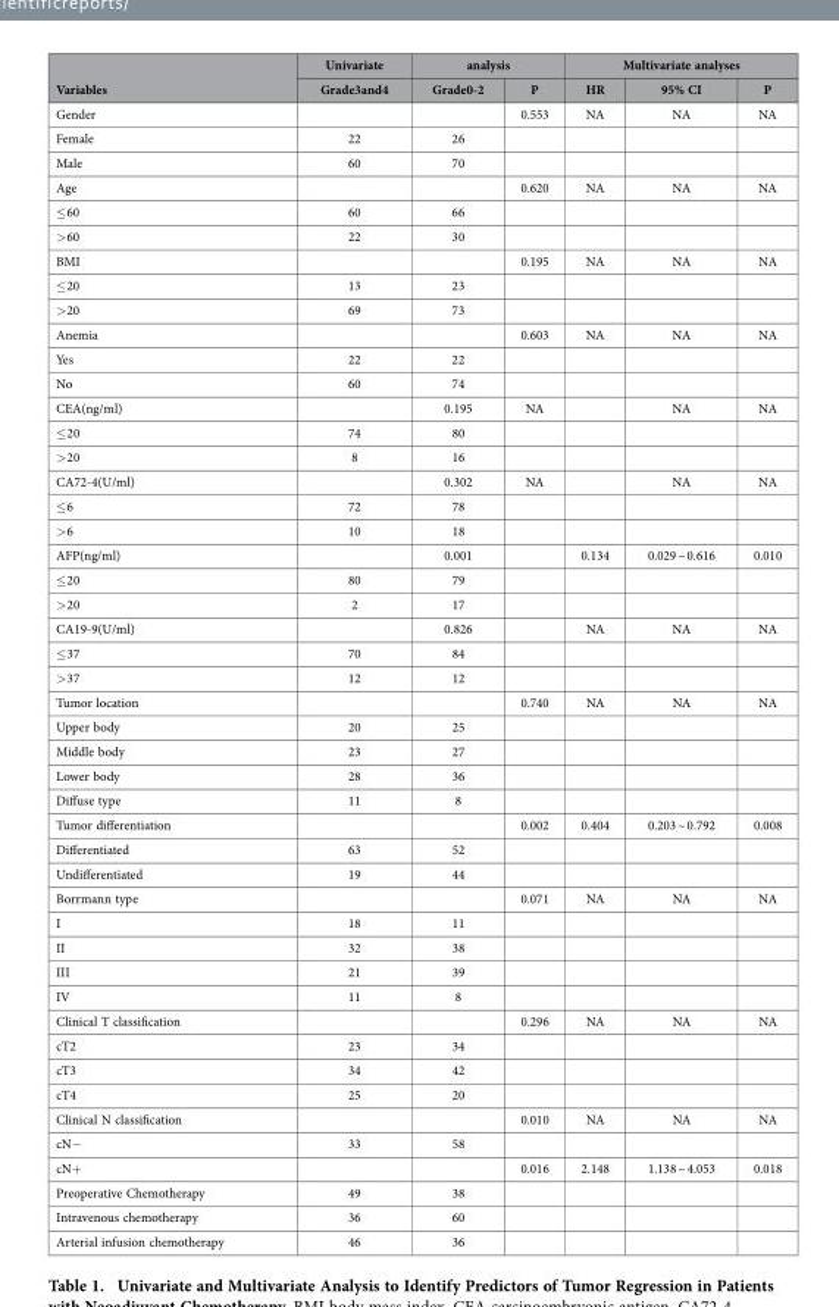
<table><thead><tr><td rowspan="2">Variables</td><td rowspan="2">Univariate Grade3and4</td><td colspan="2">analysis</td><td colspan="3">Multivariate analyses</td></tr><tr><td>Grade0-2</td><td>P</td><td>HR</td><td>95% CI</td><td>P</td></tr></thead><tbody><tr><td>Gender</td><td></td><td></td><td>0.553</td><td>NA</td><td>NA</td><td>NA</td></tr><tr><td>Female</td><td>22</td><td>26</td><td></td><td></td><td></td><td></td></tr><tr><td>Male</td><td>60</td><td>70</td><td></td><td></td><td></td><td></td></tr><tr><td>Age</td><td></td><td></td><td>0.620</td><td>NA</td><td>NA</td><td>NA</td></tr><tr><td>≤ 60</td><td>60</td><td>66</td><td></td><td></td><td></td><td></td></tr><tr><td>&gt; 60</td><td>22</td><td>30</td><td></td><td></td><td></td><td></td></tr><tr><td>BMI</td><td></td><td></td><td>0.195</td><td>NA</td><td>NA</td><td>NA</td></tr><tr><td>≤ 20</td><td>13</td><td>23</td><td></td><td></td><td></td><td></td></tr><tr><td>&gt; 20</td><td>69</td><td>73</td><td></td><td></td><td></td><td></td></tr><tr><td>Anemia</td><td></td><td></td><td>0.603</td><td>NA</td><td>NA</td><td>NA</td></tr><tr><td>Yes</td><td>22</td><td>22</td><td></td><td></td><td></td><td></td></tr><tr><td>No</td><td>60</td><td>74</td><td></td><td></td><td></td><td></td></tr><tr><td>CEA(ng/ml)</td><td></td><td>0.195</td><td>NA</td><td></td><td>NA</td><td>NA</td></tr><tr><td>≤ 20</td><td>74</td><td>80</td><td></td><td></td><td></td><td></td></tr><tr><td>&gt; 20</td><td>8</td><td>16</td><td></td><td></td><td></td><td></td></tr><tr><td>CA72-4(U/ml)</td><td></td><td>0.302</td><td>NA</td><td></td><td>NA</td><td>NA</td></tr><tr><td>≤ 6</td><td>72</td><td>78</td><td></td><td></td><td></td><td></td></tr><tr><td>&gt; 6</td><td>10</td><td>18</td><td></td><td></td><td></td><td></td></tr><tr><td>AFP(ng/ml)</td><td></td><td>0.001</td><td></td><td>0.134</td><td>0.029 ~ 0.616</td><td>0.010</td></tr><tr><td>≤ 20</td><td>80</td><td>79</td><td></td><td></td><td></td><td></td></tr><tr><td>&gt; 20</td><td>2</td><td>17</td><td></td><td></td><td></td><td></td></tr><tr><td>CA19-9(U/ml)</td><td></td><td>0.826</td><td></td><td>NA</td><td>NA</td><td>NA</td></tr><tr><td>≤ 37</td><td>70</td><td>84</td><td></td><td></td><td></td><td></td></tr><tr><td>&gt; 37</td><td>12</td><td>12</td><td></td><td></td><td></td><td></td></tr><tr><td>Tumor location</td><td></td><td></td><td>0.740</td><td>NA</td><td>NA</td><td>NA</td></tr><tr><td>Upper body</td><td>20</td><td>25</td><td></td><td></td><td></td><td></td></tr><tr><td>Middle body</td><td>23</td><td>27</td><td></td><td></td><td></td><td></td></tr><tr><td>Lower body</td><td>28</td><td>36</td><td></td><td></td><td></td><td></td></tr><tr><td>Diffuse type</td><td>11</td><td>8</td><td></td><td></td><td></td><td></td></tr><tr><td>Tumor differentiation</td><td></td><td></td><td>0.002</td><td>0.404</td><td>0.203 ~ 0.792</td><td>0.008</td></tr><tr><td>Differentiated</td><td>63</td><td>52</td><td></td><td></td><td></td><td></td></tr><tr><td>Undifferentiated</td><td>19</td><td>44</td><td></td><td></td><td></td><td></td></tr><tr><td>Borrmann type</td><td></td><td></td><td>0.071</td><td>NA</td><td>NA</td><td>NA</td></tr><tr><td>I</td><td>18</td><td>11</td><td></td><td></td><td></td><td></td></tr><tr><td>II</td><td>32</td><td>38</td><td></td><td></td><td></td><td></td></tr><tr><td>III</td><td>21</td><td>39</td><td></td><td></td><td></td><td></td></tr><tr><td>IV</td><td>11</td><td>8</td><td></td><td></td><td></td><td></td></tr><tr><td>Clinical T classification</td><td></td><td></td><td>0.296</td><td>NA</td><td>NA</td><td>NA</td></tr><tr><td>cT2</td><td>23</td><td>34</td><td></td><td></td><td></td><td></td></tr><tr><td>cT3</td><td>34</td><td>42</td><td></td><td></td><td></td><td></td></tr><tr><td>cT4</td><td>25</td><td>20</td><td></td><td></td><td></td><td></td></tr><tr><td>Clinical N classification</td><td></td><td></td><td>0.010</td><td>NA</td><td>NA</td><td>NA</td></tr><tr><td>cN−</td><td>33</td><td>58</td><td></td><td></td><td></td><td></td></tr><tr><td>cN+</td><td></td><td></td><td>0.016</td><td>2.148</td><td>1.138 ~ 4.053</td><td>0.018</td></tr><tr><td>Preoperative Chemotherapy</td><td>49</td><td>38</td><td></td><td></td><td></td><td></td></tr><tr><td>Intravenous chemotherapy</td><td>36</td><td>60</td><td></td><td></td><td></td><td></td></tr><tr><td>Arterial infusion chemotherapy</td><td>46</td><td>36</td><td></td><td></td><td></td><td></td></tr></tbody></table>